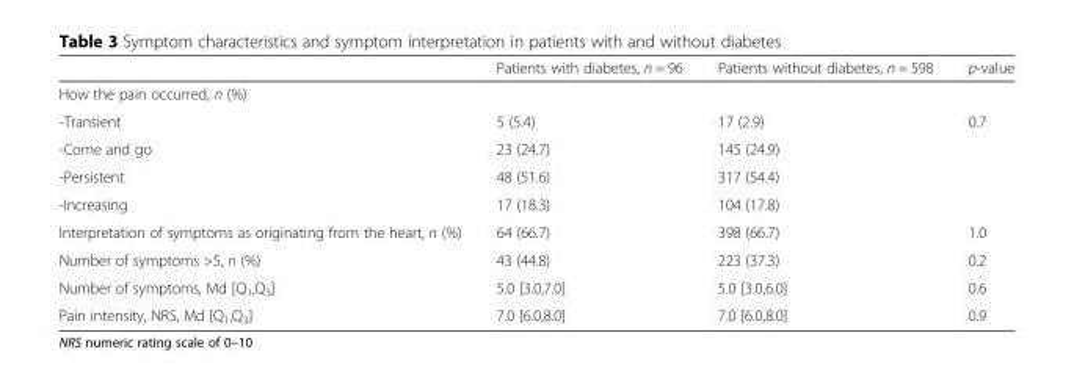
<table><thead><tr><td></td><td>Patients with diabetes, n = 96</td><td>Patients without diabetes, n = 598</td><td>p-value</td></tr></thead><tbody><tr><td colspan="4">How the pain occurred, n (%)</td></tr><tr><td>-Transient</td><td>5 (5.4)</td><td>17 (2.9)</td><td>0.7</td></tr><tr><td>-Come and go</td><td>23 (24.7)</td><td>145 (24.9)</td><td></td></tr><tr><td>-Persistent</td><td>48 (51.6)</td><td>317 (54.4)</td><td></td></tr><tr><td>-Increasing</td><td>17 (18.3)</td><td>104 (17.8)</td><td></td></tr><tr><td>Interpretation of symptoms as originating from the heart, n (%)</td><td>64 (66.7)</td><td>398 (66.7)</td><td>1.0</td></tr><tr><td>Number of symptoms &gt;5, n (%)</td><td>43 (44.8)</td><td>223 (37.3)</td><td>0.2</td></tr><tr><td>Number of symptoms, Md [Q<sub>1</sub>,Q<sub>3</sub>]</td><td>5.0 [3.0,7.0]</td><td>5.0 [3.0,6.0]</td><td>0.6</td></tr><tr><td>Pain intensity, NRS, Md [Q<sub>1</sub>,Q<sub>3</sub>]</td><td>7.0 [6.0,8.0]</td><td>7.0 [6.0,8.0]</td><td>0.9</td></tr></tbody></table>